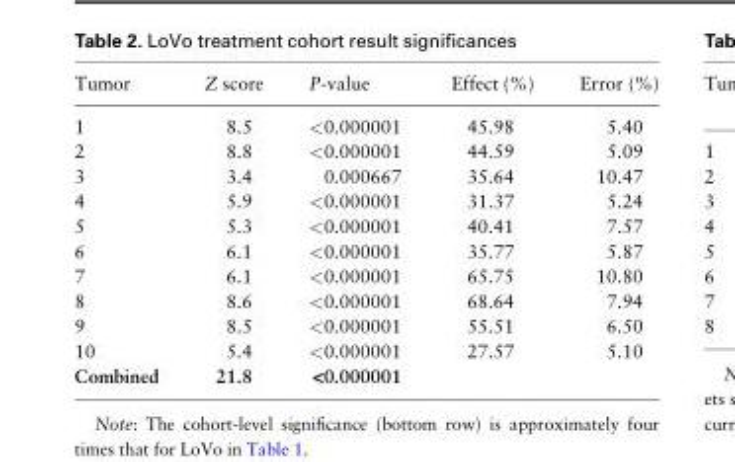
<table><thead><tr><td>Tumor</td><td>Z score</td><td>P-value</td><td>Effect (%)</td><td>Error (%)</td></tr></thead><tbody><tr><td>1</td><td>8.5</td><td>&lt;0.000001</td><td>45.98</td><td>5.40</td></tr><tr><td>2</td><td>8.8</td><td>&lt;0.000001</td><td>44.59</td><td>5.09</td></tr><tr><td>3</td><td>3.4</td><td>0.000667</td><td>35.64</td><td>10.47</td></tr><tr><td>4</td><td>5.9</td><td>&lt;0.000001</td><td>31.37</td><td>5.24</td></tr><tr><td>5</td><td>5.3</td><td>&lt;0.000001</td><td>40.41</td><td>7.57</td></tr><tr><td>6</td><td>6.1</td><td>&lt;0.000001</td><td>35.77</td><td>5.87</td></tr><tr><td>7</td><td>6.1</td><td>&lt;0.000001</td><td>65.75</td><td>10.80</td></tr><tr><td>8</td><td>8.6</td><td>&lt;0.000001</td><td>68.64</td><td>7.94</td></tr><tr><td>9</td><td>8.5</td><td>&lt;0.000001</td><td>55.51</td><td>6.50</td></tr><tr><td>10</td><td>5.4</td><td>&lt;0.000001</td><td>27.57</td><td>5.10</td></tr><tr><td>Combined</td><td>21.8</td><td>&lt;0.000001</td><td></td><td></td></tr></tbody></table>